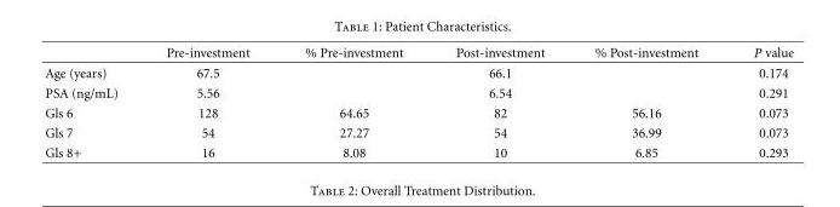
<table><thead><tr><td></td><td>Pre-investment</td><td>% Pre-investment</td><td>Post-investment</td><td>% Post-investment</td><td>P value</td></tr></thead><tbody><tr><td>Age (years)</td><td>67.5</td><td></td><td>66.1</td><td></td><td>0.174</td></tr><tr><td>PSA (ng/mL)</td><td>5.56</td><td></td><td>6.54</td><td></td><td>0.291</td></tr><tr><td>Gls 6</td><td>128</td><td>64.65</td><td>82</td><td>56.16</td><td>0.073</td></tr><tr><td>Gls 7</td><td>54</td><td>27.27</td><td>54</td><td>36.99</td><td>0.073</td></tr><tr><td>Gls 8+</td><td>16</td><td>8.08</td><td>10</td><td>6.85</td><td>0.293</td></tr></tbody></table>